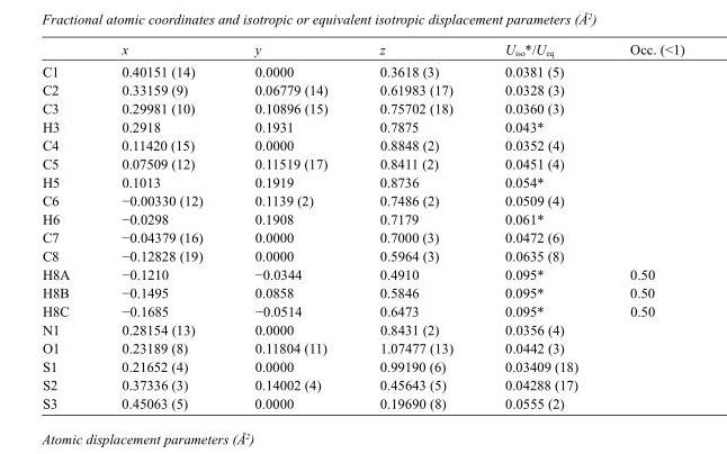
<table><thead><tr><td></td><td>x</td><td>y</td><td>z</td><td>U<sub>iso</sub>*/U<sub>eq</sub></td><td>Occ. (&lt;1)</td></tr></thead><tbody><tr><td>C1</td><td>0.40151 (14)</td><td>0.0000</td><td>0.3618 (3)</td><td>0.0381 (5)</td><td></td></tr><tr><td>C2</td><td>0.33159 (9)</td><td>0.06779 (14)</td><td>0.61983 (17)</td><td>0.0328 (3)</td><td></td></tr><tr><td>C3</td><td>0.29981 (10)</td><td>0.10896 (15)</td><td>0.75702 (18)</td><td>0.0360 (3)</td><td></td></tr><tr><td>H3</td><td>0.2918</td><td>0.1931</td><td>0.7875</td><td>0.043*</td><td></td></tr><tr><td>C4</td><td>0.11420 (15)</td><td>0.0000</td><td>0.8848 (2)</td><td>0.0352 (4)</td><td></td></tr><tr><td>C5</td><td>0.07509 (12)</td><td>0.11519 (17)</td><td>0.8411 (2)</td><td>0.0451 (4)</td><td></td></tr><tr><td>H5</td><td>0.1013</td><td>0.1919</td><td>0.8736</td><td>0.054*</td><td></td></tr><tr><td>C6</td><td>−0.00330 (12)</td><td>0.1139 (2)</td><td>0.7486 (2)</td><td>0.0509 (4)</td><td></td></tr><tr><td>H6</td><td>−0.0298</td><td>0.1908</td><td>0.7179</td><td>0.061*</td><td></td></tr><tr><td>C7</td><td>−0.04379 (16)</td><td>0.0000</td><td>0.7000 (3)</td><td>0.0472 (6)</td><td></td></tr><tr><td>C8</td><td>−0.12828 (19)</td><td>0.0000</td><td>0.5964 (3)</td><td>0.0635 (8)</td><td></td></tr><tr><td>H8A</td><td>−0.1210</td><td>−0.0344</td><td>0.4910</td><td>0.095*</td><td>0.50</td></tr><tr><td>H8B</td><td>−0.1495</td><td>0.0858</td><td>0.5846</td><td>0.095*</td><td>0.50</td></tr><tr><td>H8C</td><td>−0.1685</td><td>−0.0514</td><td>0.6473</td><td>0.095*</td><td>0.50</td></tr><tr><td>N1</td><td>0.28154 (13)</td><td>0.0000</td><td>0.8431 (2)</td><td>0.0356 (4)</td><td></td></tr><tr><td>O1</td><td>0.23189 (8)</td><td>0.11804 (11)</td><td>1.07477 (13)</td><td>0.0442 (3)</td><td></td></tr><tr><td>S1</td><td>0.21652 (4)</td><td>0.0000</td><td>0.99190 (6)</td><td>0.03409 (18)</td><td></td></tr><tr><td>S2</td><td>0.37336 (3)</td><td>0.14002 (4)</td><td>0.45643 (5)</td><td>0.04288 (17)</td><td></td></tr><tr><td>S3</td><td>0.45063 (5)</td><td>0.0000</td><td>0.19690 (8)</td><td>0.0555 (2)</td><td></td></tr></tbody></table>